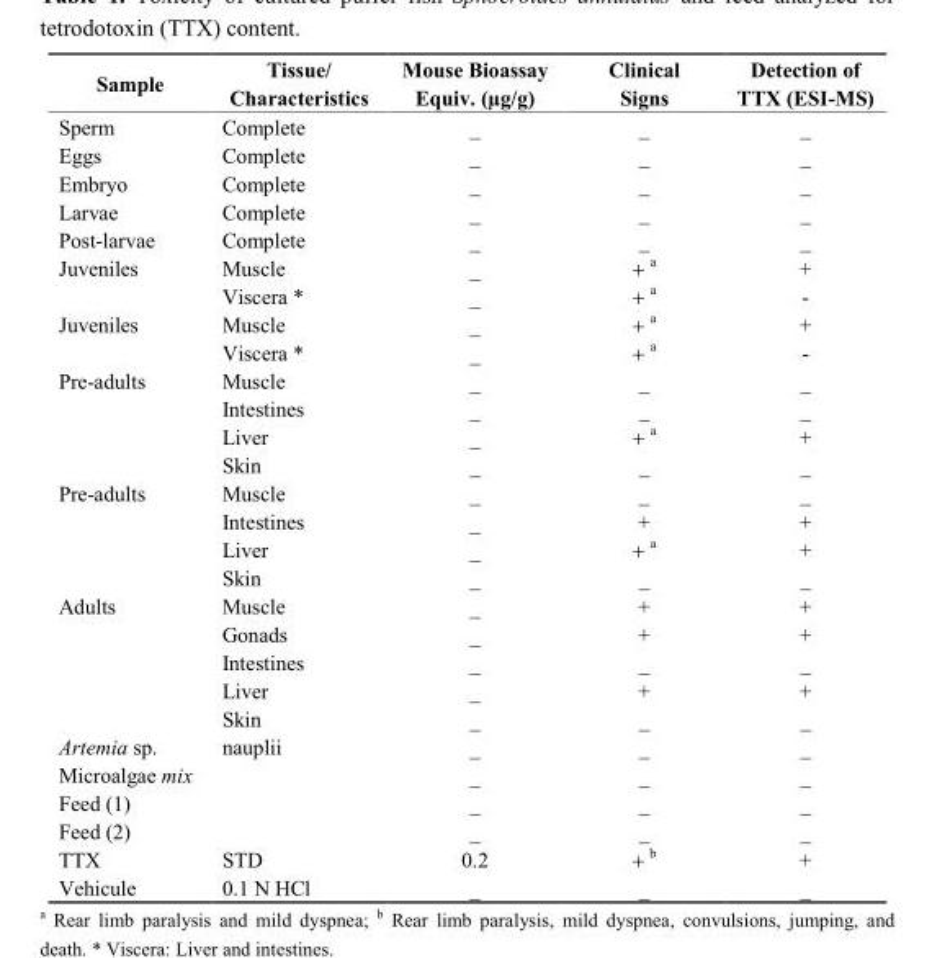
<table><thead><tr><td>Sample</td><td>Tissue/ Characteristics</td><td>Mouse Bioassay Equiv. (µg/g)</td><td>Clinical Signs</td><td>Detection of TTX (ESI-MS)</td></tr></thead><tbody><tr><td>Sperm</td><td>Complete</td><td>_</td><td>_</td><td>_</td></tr><tr><td>Eggs</td><td>Complete</td><td>_</td><td>_</td><td>_</td></tr><tr><td>Embryo</td><td>Complete</td><td>_</td><td>_</td><td>_</td></tr><tr><td>Larvae</td><td>Complete</td><td>_</td><td>_</td><td>_</td></tr><tr><td>Post-larvae</td><td>Complete</td><td>_</td><td>_</td><td>_</td></tr><tr><td rowspan="2">Juveniles</td><td>Muscle</td><td>_</td><td>+ <sup>a</sup></td><td>+</td></tr><tr><td>Viscera *</td><td>_</td><td>+ <sup>a</sup></td><td>-</td></tr><tr><td rowspan="2">Juveniles</td><td>Muscle</td><td>_</td><td>+ <sup>a</sup></td><td>+</td></tr><tr><td>Viscera *</td><td>_</td><td>+ <sup>a</sup></td><td>-</td></tr><tr><td rowspan="4">Pre-adults</td><td>Muscle</td><td>_</td><td>_</td><td>_</td></tr><tr><td>Intestines</td><td>_</td><td>_</td><td>_</td></tr><tr><td>Liver</td><td>_</td><td>+ <sup>a</sup></td><td>+</td></tr><tr><td>Skin</td><td>_</td><td>_</td><td>_</td></tr><tr><td rowspan="4">Pre-adults</td><td>Muscle</td><td>_</td><td>_</td><td>_</td></tr><tr><td>Intestines</td><td>_</td><td>+</td><td>+</td></tr><tr><td>Liver</td><td>_</td><td>+ <sup>a</sup></td><td>+</td></tr><tr><td>Skin</td><td>_</td><td>_</td><td>_</td></tr><tr><td rowspan="5">Adults</td><td>Muscle</td><td>_</td><td>+</td><td>+</td></tr><tr><td>Gonads</td><td>_</td><td>+</td><td>+</td></tr><tr><td>Intestines</td><td>_</td><td>_</td><td>_</td></tr><tr><td>Liver</td><td>_</td><td>+</td><td>+</td></tr><tr><td>Skin</td><td>_</td><td>_</td><td>_</td></tr><tr><td>Artemia sp.</td><td>nauplii</td><td>_</td><td>_</td><td>_</td></tr><tr><td>Microalgae mix</td><td></td><td>_</td><td>_</td><td>_</td></tr><tr><td>Feed (1)</td><td></td><td>_</td><td>_</td><td>_</td></tr><tr><td>Feed (2)</td><td></td><td>_</td><td>_</td><td>_</td></tr><tr><td>TTX</td><td>STD</td><td>0.2</td><td>+ <sup>b</sup></td><td>+</td></tr><tr><td>Vehicule</td><td>0.1 N HCl</td><td>_</td><td>_</td><td>_</td></tr></tbody></table>